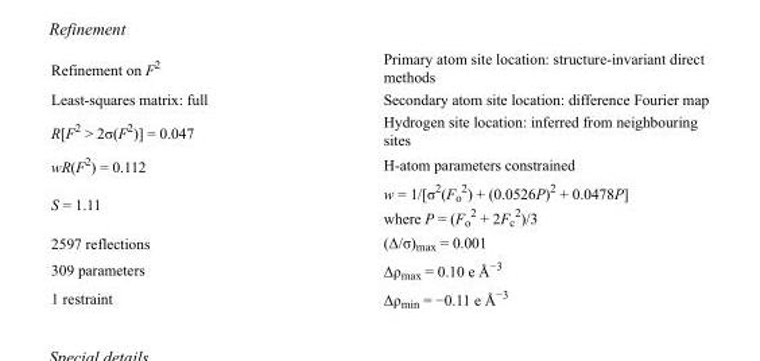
<table><tbody><tr><td>Refinement on F<sup>2</sup></td><td>Primary atom site location: structure-invariant direct methods</td></tr><tr><td>Least-squares matrix: full</td><td>Secondary atom site location: difference Fourier map</td></tr><tr><td>R[F<sup>2</sup> &gt; 2σ(F<sup>2</sup>)] = 0.047</td><td>Hydrogen site location: inferred from neighbouring sites</td></tr><tr><td>wR(F<sup>2</sup>) = 0.112</td><td>H-atom parameters constrained</td></tr><tr><td>S = 1.11</td><td>w = 1/[σ<sup>2</sup>(F<sub>o</sub> <sup>2</sup>) + (0.0526P)<sup>2</sup> + 0.0478P] where P = (F<sub>o</sub> <sup>2</sup> + 2F<sub>c</sub> <sup>2</sup>)/3</td></tr><tr><td>2597 reflections</td><td>(Δ/σ)<sub>max</sub> = 0.001</td></tr><tr><td>309 parameters</td><td>Δρ<sub>max</sub> = 0.10 e Å<sup>−3</sup></td></tr><tr><td>1 restraint</td><td>Δρ<sub>min</sub> = −0.11 e Å<sup>−3</sup></td></tr></tbody></table>